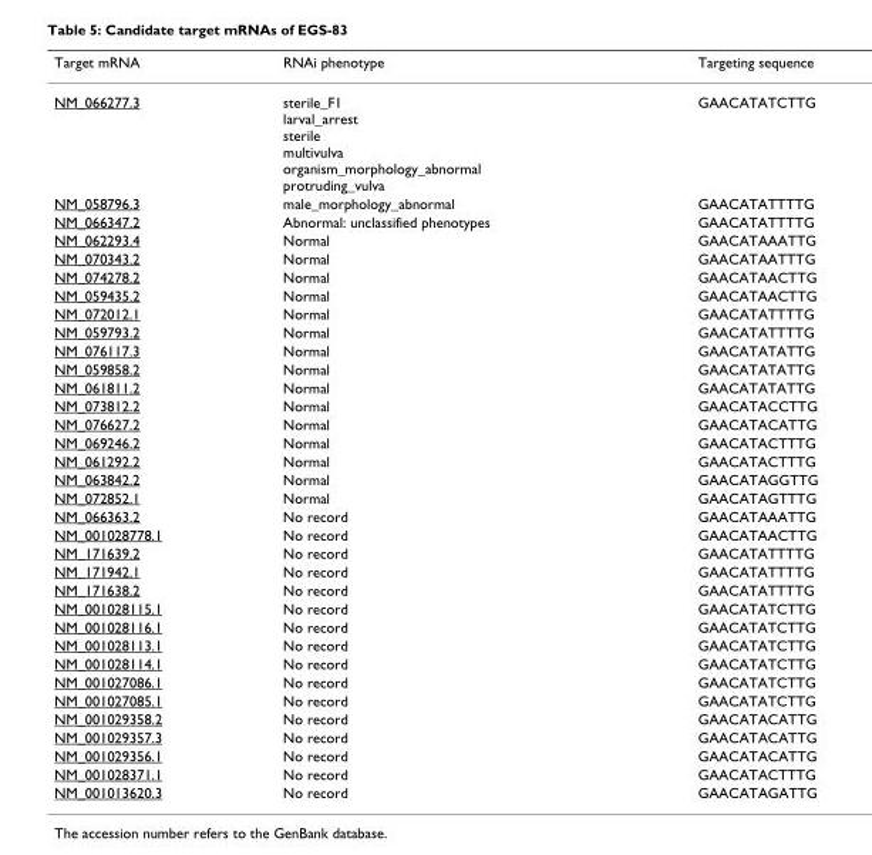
<table><thead><tr><td>Target mRNA</td><td>RNAi phenotype</td><td>Targeting sequence</td></tr></thead><tbody><tr><td>NM_066277.3</td><td>sterile_F1 larval_arrest sterile multivulva organism_morphology_abnormal protruding_vulva</td><td>GAACATATCTTG</td></tr><tr><td>NM_058796.3</td><td>male_morphology_abnormal</td><td>GAACATATTTTG</td></tr><tr><td>NM_066347.2</td><td>Abnormal: unclassified phenotypes</td><td>GAACATATTTTG</td></tr><tr><td>NM_062293.4</td><td>Normal</td><td>GAACATAAATTG</td></tr><tr><td>NM_070343.2</td><td>Normal</td><td>GAACATAATTTG</td></tr><tr><td>NM_074278.2</td><td>Normal</td><td>GAACATAACTTG</td></tr><tr><td>NM_059435.2</td><td>Normal</td><td>GAACATAACTTG</td></tr><tr><td>NM_072012.1</td><td>Normal</td><td>GAACATATTTTG</td></tr><tr><td>NM_059793.2</td><td>Normal</td><td>GAACATATTTTG</td></tr><tr><td>NM_076117.3</td><td>Normal</td><td>GAACATATATTG</td></tr><tr><td>NM_059858.2</td><td>Normal</td><td>GAACATATATTG</td></tr><tr><td>NM_061811.2</td><td>Normal</td><td>GAACATATATTG</td></tr><tr><td>NM_073812.2</td><td>Normal</td><td>GAACATACCTTG</td></tr><tr><td>NM_076627.2</td><td>Normal</td><td>GAACATACATTG</td></tr><tr><td>NM_069246.2</td><td>Normal</td><td>GAACATACTTTG</td></tr><tr><td>NM_061292.2</td><td>Normal</td><td>GAACATACTTTG</td></tr><tr><td>NM_063842.2</td><td>Normal</td><td>GAACATAGGTTG</td></tr><tr><td>NM_072852.1</td><td>Normal</td><td>GAACATAGTTTG</td></tr><tr><td>NM_066363.2</td><td>No record</td><td>GAACATAAATTG</td></tr><tr><td>NM_001028778.1</td><td>No record</td><td>GAACATAACTTG</td></tr><tr><td>NM_171639.2</td><td>No record</td><td>GAACATATTTTG</td></tr><tr><td>NM_171942.1</td><td>No record</td><td>GAACATATTTTG</td></tr><tr><td>NM_171638.2</td><td>No record</td><td>GAACATATTTTG</td></tr><tr><td>NM_001028115.1</td><td>No record</td><td>GAACATATCTTG</td></tr><tr><td>NM_001028116.1</td><td>No record</td><td>GAACATATCTTG</td></tr><tr><td>NM_001028113.1</td><td>No record</td><td>GAACATATCTTG</td></tr><tr><td>NM_001028114.1</td><td>No record</td><td>GAACATATCTTG</td></tr><tr><td>NM_001027086.1</td><td>No record</td><td>GAACATATCTTG</td></tr><tr><td>NM_001027085.1</td><td>No record</td><td>GAACATATCTTG</td></tr><tr><td>NM_001029358.2</td><td>No record</td><td>GAACATACATTG</td></tr><tr><td>NM_001029357.3</td><td>No record</td><td>GAACATACATTG</td></tr><tr><td>NM_001029356.1</td><td>No record</td><td>GAACATACATTG</td></tr><tr><td>NM_001028371.1</td><td>No record</td><td>GAACATACTTTG</td></tr><tr><td>NM_001013620.3</td><td>No record</td><td>GAACATAGATTG</td></tr></tbody></table>